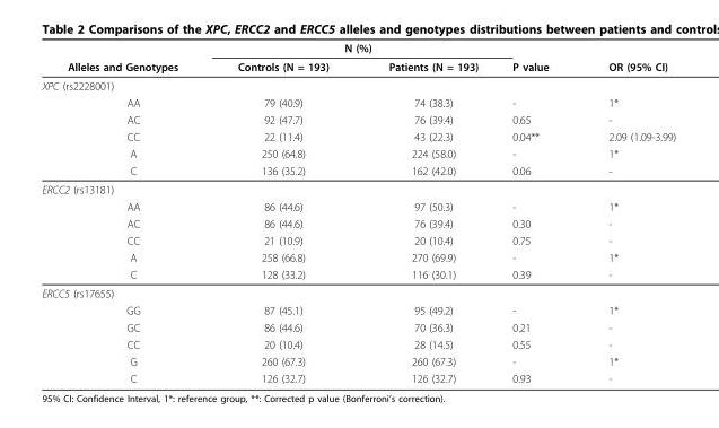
<table><thead><tr><td rowspan="2">Alleles and Genotypes</td><td colspan="2">N (%)</td><td rowspan="2">P value</td><td rowspan="2">OR (95% CI)</td></tr><tr><td>Controls (N = 193)</td><td>Patients (N = 193)</td></tr></thead><tbody><tr><td colspan="5">XPC (rs2228001)</td></tr><tr><td>AA</td><td>79 (40.9)</td><td>74 (38.3)</td><td>-</td><td>1*</td></tr><tr><td>AC</td><td>92 (47.7)</td><td>76 (39.4)</td><td>0.65</td><td>-</td></tr><tr><td>CC</td><td>22 (11.4)</td><td>43 (22.3)</td><td>0.04**</td><td>2.09 (1.09-3.99)</td></tr><tr><td>A</td><td>250 (64.8)</td><td>224 (58.0)</td><td>-</td><td>1*</td></tr><tr><td>C</td><td>136 (35.2)</td><td>162 (42.0)</td><td>0.06</td><td>-</td></tr><tr><td colspan="5">ERCC2 (rs13181)</td></tr><tr><td>AA</td><td>86 (44.6)</td><td>97 (50.3)</td><td>-</td><td>1*</td></tr><tr><td>AC</td><td>86 (44.6)</td><td>76 (39.4)</td><td>0.30</td><td>-</td></tr><tr><td>CC</td><td>21 (10.9)</td><td>20 (10.4)</td><td>0.75</td><td>-</td></tr><tr><td>A</td><td>258 (66.8)</td><td>270 (69.9)</td><td>-</td><td>1*</td></tr><tr><td>C</td><td>128 (33.2)</td><td>116 (30.1)</td><td>0.39</td><td>-</td></tr><tr><td colspan="5">ERCC5 (rs17655)</td></tr><tr><td>GG</td><td>87 (45.1)</td><td>95 (49.2)</td><td>-</td><td>1*</td></tr><tr><td>GC</td><td>86 (44.6)</td><td>70 (36.3)</td><td>0.21</td><td>-</td></tr><tr><td>CC</td><td>20 (10.4)</td><td>28 (14.5)</td><td>0.55</td><td>-</td></tr><tr><td>G</td><td>260 (67.3)</td><td>260 (67.3)</td><td>-</td><td>1*</td></tr><tr><td>C</td><td>126 (32.7)</td><td>126 (32.7)</td><td>0.93</td><td>-</td></tr></tbody></table>